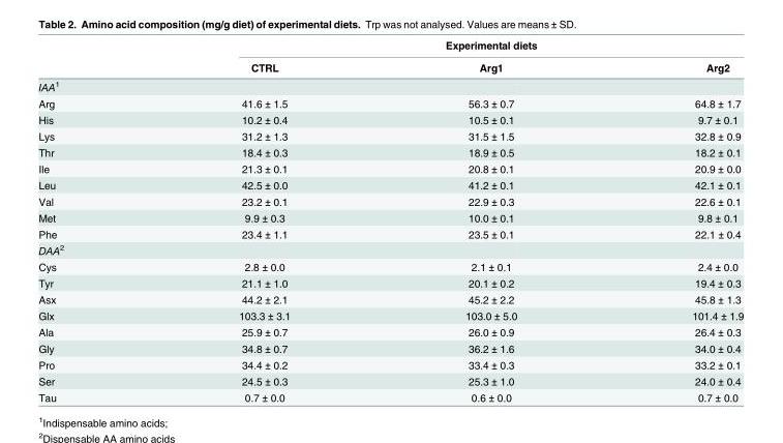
<table><thead><tr><td rowspan="2"></td><td colspan="3">Experimental diets</td></tr><tr><td>CTRL</td><td>Arg1</td><td>Arg2</td></tr></thead><tbody><tr><td colspan="4">IAA<sup>1</sup></td></tr><tr><td>Arg</td><td>41.6 ± 1.5</td><td>56.3 ± 0.7</td><td>64.8 ± 1.7</td></tr><tr><td>His</td><td>10.2 ± 0.4</td><td>10.5 ± 0.1</td><td>9.7 ± 0.1</td></tr><tr><td>Lys</td><td>31.2 ± 1.3</td><td>31.5 ± 1.5</td><td>32.8 ± 0.9</td></tr><tr><td>Thr</td><td>18.4 ± 0.3</td><td>18.9 ± 0.5</td><td>18.2 ± 0.1</td></tr><tr><td>Ile</td><td>21.3 ± 0.1</td><td>20.8 ± 0.1</td><td>20.9 ± 0.0</td></tr><tr><td>Leu</td><td>42.5 ± 0.0</td><td>41.2 ± 0.1</td><td>42.1 ± 0.1</td></tr><tr><td>Val</td><td>23.2 ± 0.1</td><td>22.9 ± 0.3</td><td>22.6 ± 0.1</td></tr><tr><td>Met</td><td>9.9 ± 0.3</td><td>10.0 ± 0.1</td><td>9.8 ± 0.1</td></tr><tr><td>Phe</td><td>23.4 ± 1.1</td><td>23.5 ± 0.1</td><td>22.1 ± 0.4</td></tr><tr><td colspan="4">DAA<sup>2</sup></td></tr><tr><td>Cys</td><td>2.8 ± 0.0</td><td>2.1 ± 0.1</td><td>2.4 ± 0.0</td></tr><tr><td>Tyr</td><td>21.1 ± 1.0</td><td>20.1 ± 0.2</td><td>19.4 ± 0.3</td></tr><tr><td>Asx</td><td>44.2 ± 2.1</td><td>45.2 ± 2.2</td><td>45.8 ± 1.3</td></tr><tr><td>Glx</td><td>103.3 ± 3.1</td><td>103.0 ± 5.0</td><td>101.4 ± 1.9</td></tr><tr><td>Ala</td><td>25.9 ± 0.7</td><td>26.0 ± 0.9</td><td>26.4 ± 0.3</td></tr><tr><td>Gly</td><td>34.8 ± 0.7</td><td>36.2 ± 1.6</td><td>34.0 ± 0.4</td></tr><tr><td>Pro</td><td>34.4 ± 0.2</td><td>33.4 ± 0.3</td><td>33.2 ± 0.1</td></tr><tr><td>Ser</td><td>24.5 ± 0.3</td><td>25.3 ± 1.0</td><td>24.0 ± 0.4</td></tr><tr><td>Tau</td><td>0.7 ± 0.0</td><td>0.6 ± 0.0</td><td>0.7 ± 0.0</td></tr></tbody></table>